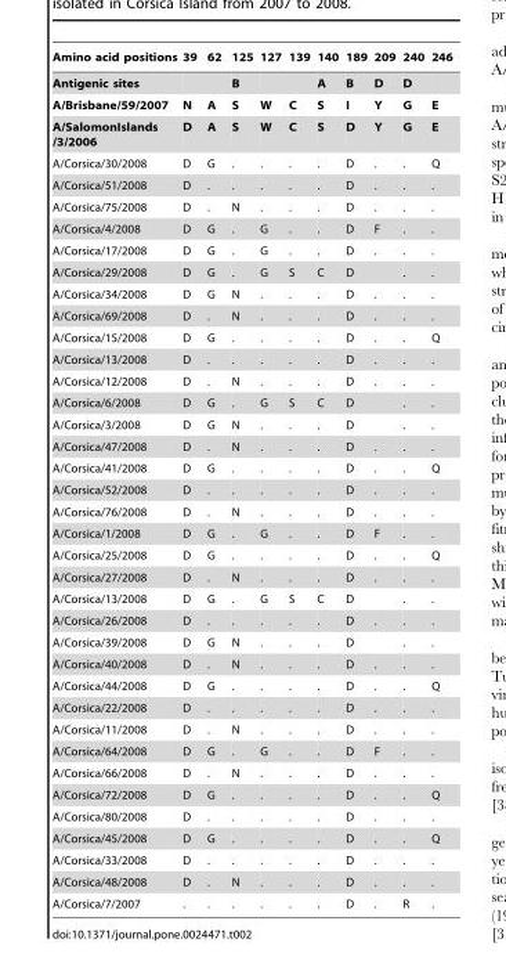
<table><thead><tr><td>Amino acid positions</td><td>39</td><td>62</td><td>125</td><td>127</td><td>139</td><td>140</td><td>189</td><td>209</td><td>240</td><td>246</td></tr></thead><tbody><tr><td>Antigenic sites</td><td></td><td></td><td>B</td><td></td><td></td><td>A</td><td>B</td><td>D</td><td>D</td><td></td></tr><tr><td>A/Brisbane/59/2007</td><td>N</td><td>A</td><td>S</td><td>W</td><td>C</td><td>S</td><td>I</td><td>Y</td><td>G</td><td>E</td></tr><tr><td>A/SalomonIslands /3/2006</td><td>D</td><td>A</td><td>S</td><td>W</td><td>C</td><td>S</td><td>D</td><td>Y</td><td>G</td><td>E</td></tr><tr><td>A/Corsica/30/2008</td><td>D</td><td>G</td><td>.</td><td>.</td><td>.</td><td>.</td><td>D</td><td>.</td><td>.</td><td>Q</td></tr><tr><td>A/Corsica/51/2008</td><td>D</td><td>.</td><td>.</td><td>.</td><td>.</td><td>.</td><td>D</td><td>.</td><td>.</td><td>.</td></tr><tr><td>A/Corsica/75/2008</td><td>D</td><td>.</td><td>N</td><td>.</td><td>.</td><td>.</td><td>D</td><td>.</td><td>.</td><td>.</td></tr><tr><td>A/Corsica/4/2008</td><td>D</td><td>G</td><td>.</td><td>G</td><td>.</td><td>.</td><td>D</td><td>F</td><td>.</td><td>.</td></tr><tr><td>A/Corsica/17/2008</td><td>D</td><td>G</td><td>.</td><td>G</td><td>.</td><td>.</td><td>D</td><td>.</td><td>.</td><td>.</td></tr><tr><td>A/Corsica/29/2008</td><td>D</td><td>G</td><td>.</td><td>G</td><td>S</td><td>C</td><td>D</td><td></td><td>.</td><td>.</td></tr><tr><td>A/Corsica/34/2008</td><td>D</td><td>G</td><td>N</td><td>.</td><td>.</td><td>.</td><td>D</td><td>.</td><td>.</td><td>.</td></tr><tr><td>A/Corsica/69/2008</td><td>D</td><td>.</td><td>N</td><td>.</td><td>.</td><td>.</td><td>D</td><td>.</td><td>.</td><td>.</td></tr><tr><td>A/Corsica/15/2008</td><td>D</td><td>G</td><td>.</td><td>.</td><td>.</td><td>.</td><td>D</td><td>.</td><td>.</td><td>Q</td></tr><tr><td>A/Corsica/13/2008</td><td>D</td><td>.</td><td>.</td><td>.</td><td>.</td><td>.</td><td>D</td><td>.</td><td>.</td><td>.</td></tr><tr><td>A/Corsica/12/2008</td><td>D</td><td>.</td><td>N</td><td>.</td><td>.</td><td>.</td><td>D</td><td>.</td><td>.</td><td>.</td></tr><tr><td>A/Corsica/6/2008</td><td>D</td><td>G</td><td>.</td><td>G</td><td>S</td><td>C</td><td>D</td><td></td><td>.</td><td>.</td></tr><tr><td>A/Corsica/3/2008</td><td>D</td><td>G</td><td>N</td><td>.</td><td>.</td><td>.</td><td>D</td><td></td><td>.</td><td>.</td></tr><tr><td>A/Corsica/47/2008</td><td>D</td><td>.</td><td>N</td><td>.</td><td>.</td><td>.</td><td>D</td><td>.</td><td>.</td><td>.</td></tr><tr><td>A/Corsica/41/2008</td><td>D</td><td>G</td><td>.</td><td>.</td><td>.</td><td>.</td><td>D</td><td>.</td><td>.</td><td>Q</td></tr><tr><td>A/Corsica/52/2008</td><td>D</td><td>.</td><td>.</td><td>.</td><td>.</td><td>.</td><td>D</td><td>.</td><td>.</td><td>.</td></tr><tr><td>A/Corsica/76/2008</td><td>D</td><td>.</td><td>N</td><td>.</td><td>.</td><td>.</td><td>D</td><td>.</td><td>.</td><td>.</td></tr><tr><td>A/Corsica/1/2008</td><td>D</td><td>G</td><td>.</td><td>G</td><td>.</td><td>.</td><td>D</td><td>F</td><td>.</td><td>.</td></tr><tr><td>A/Corsica/25/2008</td><td>D</td><td>G</td><td>.</td><td>.</td><td>.</td><td>.</td><td>D</td><td>.</td><td>.</td><td>Q</td></tr><tr><td>A/Corsica/27/2008</td><td>D</td><td>.</td><td>N</td><td>.</td><td>.</td><td>.</td><td>D</td><td>.</td><td>.</td><td>.</td></tr><tr><td>A/Corsica/13/2008</td><td>D</td><td>G</td><td>.</td><td>G</td><td>S</td><td>C</td><td>D</td><td></td><td>.</td><td>.</td></tr><tr><td>A/Corsica/26/2008</td><td>D</td><td>.</td><td>.</td><td>.</td><td>.</td><td>.</td><td>D</td><td>.</td><td>.</td><td>.</td></tr><tr><td>A/Corsica/39/2008</td><td>D</td><td>G</td><td>N</td><td>.</td><td>.</td><td>.</td><td>D</td><td></td><td>.</td><td>.</td></tr><tr><td>A/Corsica/40/2008</td><td>D</td><td>.</td><td>N</td><td>.</td><td>.</td><td>.</td><td>D</td><td>.</td><td>.</td><td>.</td></tr><tr><td>A/Corsica/44/2008</td><td>D</td><td>G</td><td>.</td><td>.</td><td>.</td><td>.</td><td>D</td><td>.</td><td>.</td><td>Q</td></tr><tr><td>A/Corsica/22/2008</td><td>D</td><td>.</td><td>.</td><td>.</td><td>.</td><td>.</td><td>D</td><td>.</td><td>.</td><td>.</td></tr><tr><td>A/Corsica/11/2008</td><td>D</td><td>.</td><td>N</td><td>.</td><td>.</td><td>.</td><td>D</td><td>.</td><td>.</td><td>.</td></tr><tr><td>A/Corsica/64/2008</td><td>D</td><td>G</td><td>.</td><td>G</td><td>.</td><td>.</td><td>D</td><td>F</td><td>.</td><td>.</td></tr><tr><td>A/Corsica/66/2008</td><td>D</td><td>.</td><td>N</td><td>.</td><td>.</td><td>.</td><td>D</td><td>.</td><td>.</td><td>.</td></tr><tr><td>A/Corsica/72/2008</td><td>D</td><td>G</td><td>.</td><td>.</td><td>.</td><td>.</td><td>D</td><td>.</td><td>.</td><td>Q</td></tr><tr><td>A/Corsica/80/2008</td><td>D</td><td>.</td><td>.</td><td>.</td><td>.</td><td>.</td><td>D</td><td>.</td><td>.</td><td>.</td></tr><tr><td>A/Corsica/45/2008</td><td>D</td><td>G</td><td>.</td><td>.</td><td>.</td><td>.</td><td>D</td><td>.</td><td>.</td><td>Q</td></tr><tr><td>A/Corsica/33/2008</td><td>D</td><td>.</td><td>.</td><td>.</td><td>.</td><td>.</td><td>D</td><td>.</td><td>.</td><td>.</td></tr><tr><td>A/Corsica/48/2008</td><td>D</td><td>.</td><td>N</td><td>.</td><td>.</td><td>.</td><td>D</td><td>.</td><td>.</td><td>.</td></tr><tr><td>A/Corsica/7/2007</td><td>.</td><td>.</td><td>.</td><td>.</td><td>.</td><td>.</td><td>D</td><td>.</td><td>R</td><td>.</td></tr></tbody></table>